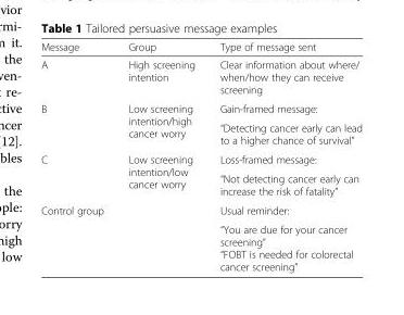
<table><thead><tr><td>Message</td><td>Group</td><td>Type of message sent</td></tr></thead><tbody><tr><td>A</td><td>High screening intention</td><td>Clear information about where/ when/how they can receive screening</td></tr><tr><td rowspan="2">B</td><td rowspan="2">Low screening intention/high cancer worry</td><td>Gain-framed message:</td></tr><tr><td>“Detecting cancer early can lead to a higher chance of survival”</td></tr><tr><td rowspan="2">C</td><td rowspan="2">Low screening intention/low cancer worry</td><td>Loss-framed message:</td></tr><tr><td>“Not detecting cancer early can increase the risk of fatality”</td></tr><tr><td rowspan="2">Control group</td><td rowspan="2"></td><td>Usual reminder:</td></tr><tr><td>“You are due for your cancer screening” “FOBT is needed for colorectal cancer screening”</td></tr></tbody></table>